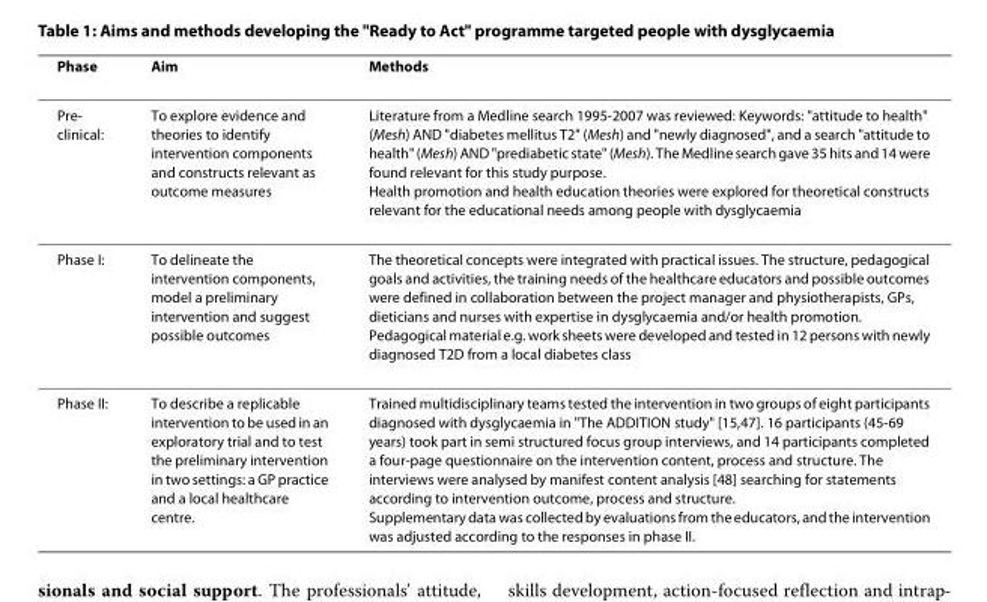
<table><thead><tr><td>Phase</td><td>Aim</td><td>Methods</td></tr></thead><tbody><tr><td>Pre- clinical:</td><td>To explore evidence and theories to identify intervention components and constructs relevant as outcome measures</td><td>Literature from a Medline search 1995-2007 was reviewed: Keywords: &quot;attitude to health&quot; (Mesh) AND &quot;diabetes mellitus T2&quot; (Mesh) and &quot;newly diagnosed&quot;, and a search &quot;attitude to health&quot; (Mesh) AND &quot;prediabetic state&quot; (Mesh). The Medline search gave 35 hits and 14 were found relevant for this study purpose. Health promotion and health education theories were explored for theoretical constructs relevant for the educational needs among people with dysglycaemia</td></tr><tr><td>Phase I:</td><td>To delineate the intervention components, model a preliminary intervention and suggest possible outcomes</td><td>The theoretical concepts were integrated with practical issues. The structure, pedagogical goals and activities, the training needs of the healthcare educators and possible outcomes were defined in collaboration between the project manager and physiotherapists, GPs, dieticians and nurses with expertise in dysglycaemia and/or health promotion. Pedagogical material e.g. work sheets were developed and tested in 12 persons with newly diagnosed T2D from a local diabetes class</td></tr><tr><td>Phase II:</td><td>To describe a replicable intervention to be used in an exploratory trial and to test the preliminary intervention in two settings: a GP practice and a local healthcare centre.</td><td>Trained multidisciplinary teams tested the intervention in two groups of eight participants diagnosed with dysglycaemia in &quot;The ADDITION study&quot; [15,47]. 16 participants (45-69 years) took part in semi structured focus group interviews, and 14 participants completed a four-page questionnaire on the intervention content, process and structure. The interviews were analysed by manifest content analysis [48] searching for statements according to intervention outcome, process and structure. Supplementary data was collected by evaluations from the educators, and the intervention was adjusted according to the responses in phase II.</td></tr></tbody></table>